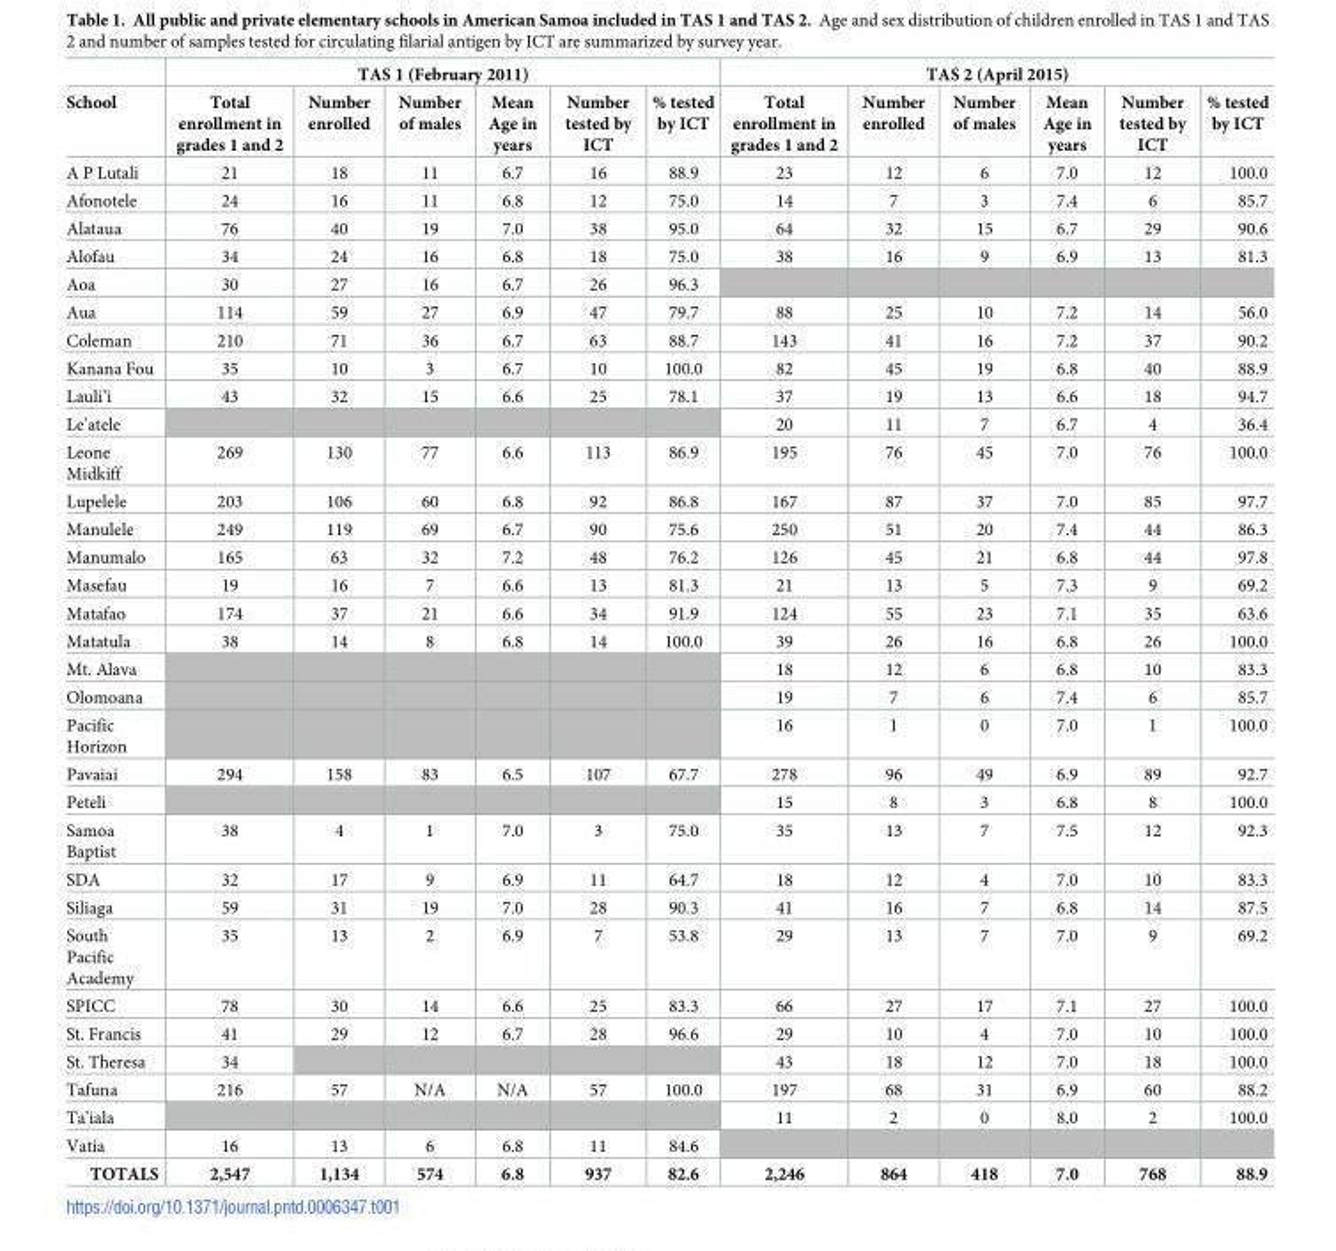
<table><thead><tr><td rowspan="2">School</td><td colspan="6">TAS 1 (February 2011)</td><td colspan="6">TAS 2 (April 2015)</td></tr><tr><td>Total enrollment in grades 1 and 2</td><td>Number enrolled</td><td>Number of males</td><td>Mean Age in years</td><td>Number tested by ICT</td><td>% tested by ICT</td><td>Total enrollment in grades 1 and 2</td><td>Number enrolled</td><td>Number of males</td><td>Mean Age in years</td><td>Number tested by ICT</td><td>% tested by ICT</td></tr></thead><tbody><tr><td>A P Lutali</td><td>21</td><td>18</td><td>11</td><td>6.7</td><td>16</td><td>88.9</td><td>23</td><td>12</td><td>6</td><td>7.0</td><td>12</td><td>100.0</td></tr><tr><td>Afonotele</td><td>24</td><td>16</td><td>11</td><td>6.8</td><td>12</td><td>75.0</td><td>14</td><td>7</td><td>3</td><td>7.4</td><td>6</td><td>85.7</td></tr><tr><td>Alataua</td><td>76</td><td>40</td><td>19</td><td>7.0</td><td>38</td><td>95.0</td><td>64</td><td>32</td><td>15</td><td>6.7</td><td>29</td><td>90.6</td></tr><tr><td>Alofau</td><td>34</td><td>24</td><td>16</td><td>6.8</td><td>18</td><td>75.0</td><td>38</td><td>16</td><td>9</td><td>6.9</td><td>13</td><td>81.3</td></tr><tr><td>Aoa</td><td>30</td><td>27</td><td>16</td><td>6.7</td><td>26</td><td>96.3</td><td></td><td></td><td></td><td></td><td></td><td></td></tr><tr><td>Aua</td><td>114</td><td>59</td><td>27</td><td>6.9</td><td>47</td><td>79.7</td><td>88</td><td>25</td><td>10</td><td>7.2</td><td>14</td><td>56.0</td></tr><tr><td>Coleman</td><td>210</td><td>71</td><td>36</td><td>6.7</td><td>63</td><td>88.7</td><td>143</td><td>41</td><td>16</td><td>7.2</td><td>37</td><td>90.2</td></tr><tr><td>Kanana Fou</td><td>35</td><td>10</td><td>3</td><td>6.7</td><td>10</td><td>100.0</td><td>82</td><td>45</td><td>19</td><td>6.8</td><td>40</td><td>88.9</td></tr><tr><td>Lauli’i</td><td>43</td><td>32</td><td>15</td><td>6.6</td><td>25</td><td>78.1</td><td>37</td><td>19</td><td>13</td><td>6.6</td><td>18</td><td>94.7</td></tr><tr><td>Le’atele</td><td></td><td></td><td></td><td></td><td></td><td></td><td>20</td><td>11</td><td>7</td><td>6.7</td><td>4</td><td>36.4</td></tr><tr><td>Leone Midkiff</td><td>269</td><td>130</td><td>77</td><td>6.6</td><td>113</td><td>86.9</td><td>195</td><td>76</td><td>45</td><td>7.0</td><td>76</td><td>100.0</td></tr><tr><td>Lupelele</td><td>203</td><td>106</td><td>60</td><td>6.8</td><td>92</td><td>86.8</td><td>167</td><td>87</td><td>37</td><td>7.0</td><td>85</td><td>97.7</td></tr><tr><td>Manulele</td><td>249</td><td>119</td><td>69</td><td>6.7</td><td>90</td><td>75.6</td><td>250</td><td>51</td><td>20</td><td>7.4</td><td>44</td><td>86.3</td></tr><tr><td>Manumalo</td><td>165</td><td>63</td><td>32</td><td>7.2</td><td>48</td><td>76.2</td><td>126</td><td>45</td><td>21</td><td>6.8</td><td>44</td><td>97.8</td></tr><tr><td>Masefau</td><td>19</td><td>16</td><td>7</td><td>6.6</td><td>13</td><td>81.3</td><td>21</td><td>13</td><td>5</td><td>7.3</td><td>9</td><td>69.2</td></tr><tr><td>Matafao</td><td>174</td><td>37</td><td>21</td><td>6.6</td><td>34</td><td>91.9</td><td>124</td><td>55</td><td>23</td><td>7.1</td><td>35</td><td>63.6</td></tr><tr><td>Matatula</td><td>38</td><td>14</td><td>8</td><td>6.8</td><td>14</td><td>100.0</td><td>39</td><td>26</td><td>16</td><td>6.8</td><td>26</td><td>100.0</td></tr><tr><td>Mt. Alava</td><td></td><td></td><td></td><td></td><td></td><td></td><td>18</td><td>12</td><td>6</td><td>6.8</td><td>10</td><td>83.3</td></tr><tr><td>Olomoana</td><td></td><td></td><td></td><td></td><td></td><td></td><td>19</td><td>7</td><td>6</td><td>7.4</td><td>6</td><td>85.7</td></tr><tr><td>Pacific Horizon</td><td></td><td></td><td></td><td></td><td></td><td></td><td>16</td><td>1</td><td>0</td><td>7.0</td><td>1</td><td>100.0</td></tr><tr><td>Pavaiai</td><td>294</td><td>158</td><td>83</td><td>6.5</td><td>107</td><td>67.7</td><td>278</td><td>96</td><td>49</td><td>6.9</td><td>89</td><td>92.7</td></tr><tr><td>Peteli</td><td></td><td></td><td></td><td></td><td></td><td></td><td>15</td><td>8</td><td>3</td><td>6.8</td><td>8</td><td>100.0</td></tr><tr><td>Samoa Baptist</td><td>38</td><td>4</td><td>1</td><td>7.0</td><td>3</td><td>75.0</td><td>35</td><td>13</td><td>7</td><td>7.5</td><td>12</td><td>92.3</td></tr><tr><td>SDA</td><td>32</td><td>17</td><td>9</td><td>6.9</td><td>11</td><td>64.7</td><td>18</td><td>12</td><td>4</td><td>7.0</td><td>10</td><td>83.3</td></tr><tr><td>Siliaga</td><td>59</td><td>31</td><td>19</td><td>7.0</td><td>28</td><td>90.3</td><td>41</td><td>16</td><td>7</td><td>6.8</td><td>14</td><td>87.5</td></tr><tr><td>South Pacific Academy</td><td>35</td><td>13</td><td>2</td><td>6.9</td><td>7</td><td>53.8</td><td>29</td><td>13</td><td>7</td><td>7.0</td><td>9</td><td>69.2</td></tr><tr><td>SPICC</td><td>78</td><td>30</td><td>14</td><td>6.6</td><td>25</td><td>83.3</td><td>66</td><td>27</td><td>17</td><td>7.1</td><td>27</td><td>100.0</td></tr><tr><td>St. Francis</td><td>41</td><td>29</td><td>12</td><td>6.7</td><td>28</td><td>96.6</td><td>29</td><td>10</td><td>4</td><td>7.0</td><td>10</td><td>100.0</td></tr><tr><td>St. Theresa</td><td>34</td><td></td><td></td><td></td><td></td><td></td><td>43</td><td>18</td><td>12</td><td>7.0</td><td>18</td><td>100.0</td></tr><tr><td>Tafuna</td><td>216</td><td>57</td><td>N/A</td><td>N/A</td><td>57</td><td>100.0</td><td>197</td><td>68</td><td>31</td><td>6.9</td><td>60</td><td>88.2</td></tr><tr><td>Ta’iala</td><td></td><td></td><td></td><td></td><td></td><td></td><td>11</td><td>2</td><td>0</td><td>8.0</td><td>2</td><td>100.0</td></tr><tr><td>Vatia</td><td>16</td><td>13</td><td>6</td><td>6.8</td><td>11</td><td>84.6</td><td></td><td></td><td></td><td></td><td></td><td></td></tr><tr><td>TOTALS</td><td>2,547</td><td>1,134</td><td>574</td><td>6.8</td><td>937</td><td>82.6</td><td>2,246</td><td>864</td><td>418</td><td>7.0</td><td>768</td><td>88.9</td></tr></tbody></table>